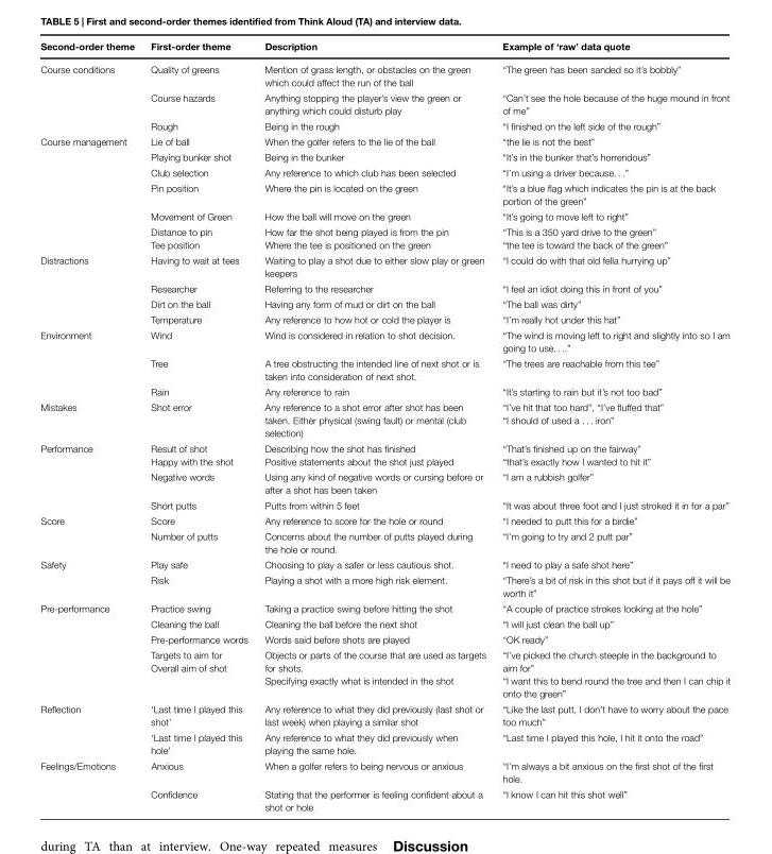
<table><thead><tr><td>Second-order theme</td><td>First-order theme</td><td>Description</td><td>Example of ‘raw’ data quote</td></tr></thead><tbody><tr><td rowspan="3">Course conditions</td><td>Quality of greens</td><td>Mention of grass length, or obstacles on the green which could affect the run of the ball</td><td>“The green has been sanded so it’s bobbly”</td></tr><tr><td>Course hazards</td><td>Anything stopping the player’s view the green or anything which could disturb play</td><td>“Can’t see the hole because of the huge mound in front of me”</td></tr><tr><td>Rough</td><td>Being in the rough</td><td>“I finished on the left side of the rough”</td></tr><tr><td rowspan="6">Course management</td><td>Lie of ball</td><td>When the golfer refers to the lie of the ball</td><td>“the lie is not the best”</td></tr><tr><td>Playing bunker shot</td><td>Being in the bunker</td><td>“It’s in the bunker that’s horrendous”</td></tr><tr><td>Club selection</td><td>Any reference to which club has been selected</td><td>“I’m using a driver because. . .”</td></tr><tr><td>Pin position</td><td>Where the pin is located on the green</td><td>“It’s a blue flag which indicates the pin is at the back portion of the green”</td></tr><tr><td>Movement of Green</td><td>How the ball will move on the green</td><td>“It’s going to move left to right”</td></tr><tr><td>Distance to pin Tee position</td><td>How far the shot being played is from the pin Where the tee is positioned on the green</td><td>“This is a 350 yard drive to the green” “the tee is toward the back of the green”</td></tr><tr><td rowspan="4">Distractions</td><td>Having to wait at tees</td><td>Waiting to play a shot due to either slow play or green keepers</td><td>“I could do with that old fella hurrying up”</td></tr><tr><td>Researcher</td><td>Referring to the researcher</td><td>“I feel an idiot doing this in front of you”</td></tr><tr><td>Dirt on the ball</td><td>Having any form of mud or dirt on the ball</td><td>“The ball was dirty”</td></tr><tr><td>Temperature</td><td>Any reference to how hot or cold the player is</td><td>“I’m really hot under this hat”</td></tr><tr><td rowspan="3">Environment</td><td>Wind</td><td>Wind is considered in relation to shot decision.</td><td>“The wind is moving left to right and slightly into so I am going to use. . ..”</td></tr><tr><td>Tree</td><td>A tree obstructing the intended line of next shot or is taken into consideration of next shot.</td><td>“The trees are reachable from this tee”</td></tr><tr><td>Rain</td><td>Any reference to rain</td><td>“It’s starting to rain but it’s not too bad”</td></tr><tr><td>Mistakes</td><td>Shot error</td><td>Any reference to a shot error after shot has been taken. Either physical (swing fault) or mental (club selection)</td><td>“I’ve hit that too hard”, “I’ve fluffed that” “I should of used a . . . iron”</td></tr><tr><td rowspan="3">Performance</td><td>Result of shot Happy with the shot</td><td>Describing how the shot has finished Positive statements about the shot just played</td><td>“That’s finished up on the fairway” “that’s exactly how I wanted to hit it”</td></tr><tr><td>Negative words</td><td>Using any kind of negative words or cursing before or after a shot has been taken</td><td>“I am a rubbish golfer”</td></tr><tr><td>Short putts</td><td>Putts from within 5 feet</td><td>“It was about three foot and I just stroked it in for a par”</td></tr><tr><td rowspan="2">Score</td><td>Score</td><td>Any reference to score for the hole or round</td><td>“I needed to putt this for a birdie”</td></tr><tr><td>Number of putts</td><td>Concerns about the number of putts played during the hole or round.</td><td>“I’m going to try and 2 putt par”</td></tr><tr><td rowspan="2">Safety</td><td>Play safe</td><td>Choosing to play a safer or less cautious shot.</td><td>“I need to play a safe shot here”</td></tr><tr><td>Risk</td><td>Playing a shot with a more high risk element.</td><td>“There’s a bit of risk in this shot but if it pays off it will be worth it”</td></tr><tr><td rowspan="4">Pre-performance</td><td>Practice swing</td><td>Taking a practice swing before hitting the shot</td><td>“A couple of practice strokes looking at the hole”</td></tr><tr><td>Cleaning the ball</td><td>Cleaning the ball before the next shot</td><td>“I will just clean the ball up”</td></tr><tr><td>Pre-performance words</td><td>Words said before shots are played</td><td>“OK ready”</td></tr><tr><td>Targets to aim for Overall aim of shot</td><td>Objects or parts of the course that are used as targets for shots. Specifying exactly what is intended in the shot</td><td>“I’ve picked the church steeple in the background to aim for” “I want this to bend round the tree and then I can chip it onto the green”</td></tr><tr><td rowspan="2">Reflection</td><td>‘Last time I played this shot’</td><td>Any reference to what they did previously (last shot or last week) when playing a similar shot</td><td>“Like the last putt, I don’t have to worry about the pace too much”</td></tr><tr><td>‘Last time I played this hole’</td><td>Any reference to what they did previously when playing the same hole.</td><td>“Last time I played this hole, I hit it onto the road”</td></tr><tr><td rowspan="2">Feelings/Emotions</td><td>Anxious</td><td>When a golfer refers to being nervous or anxious</td><td>“I’m always a bit anxious on the first shot of the first hole.</td></tr><tr><td>Confidence</td><td>Stating that the performer is feeling confident about a shot or hole</td><td>“I know I can hit this shot well”</td></tr></tbody></table>